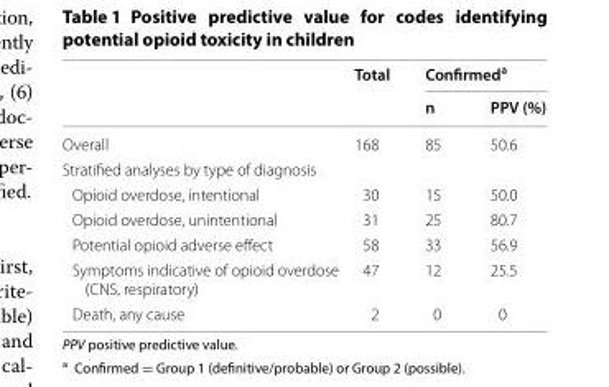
<table><thead><tr><td rowspan="2"></td><td rowspan="2">Total</td><td colspan="2">Confirmed<sup>a</sup></td></tr><tr><td>n</td><td>PPV (%)</td></tr></thead><tbody><tr><td>Overall</td><td>168</td><td>85</td><td>50.6</td></tr><tr><td colspan="4">Stratified analyses by type of diagnosis</td></tr><tr><td>Opioid overdose, intentional</td><td>30</td><td>15</td><td>50.0</td></tr><tr><td>Opioid overdose, unintentional</td><td>31</td><td>25</td><td>80.7</td></tr><tr><td>Potential opioid adverse effect</td><td>58</td><td>33</td><td>56.9</td></tr><tr><td>Symptoms indicative of opioid overdose (CNS, respiratory)</td><td>47</td><td>12</td><td>25.5</td></tr><tr><td>Death, any cause</td><td>2</td><td>0</td><td>0</td></tr></tbody></table>